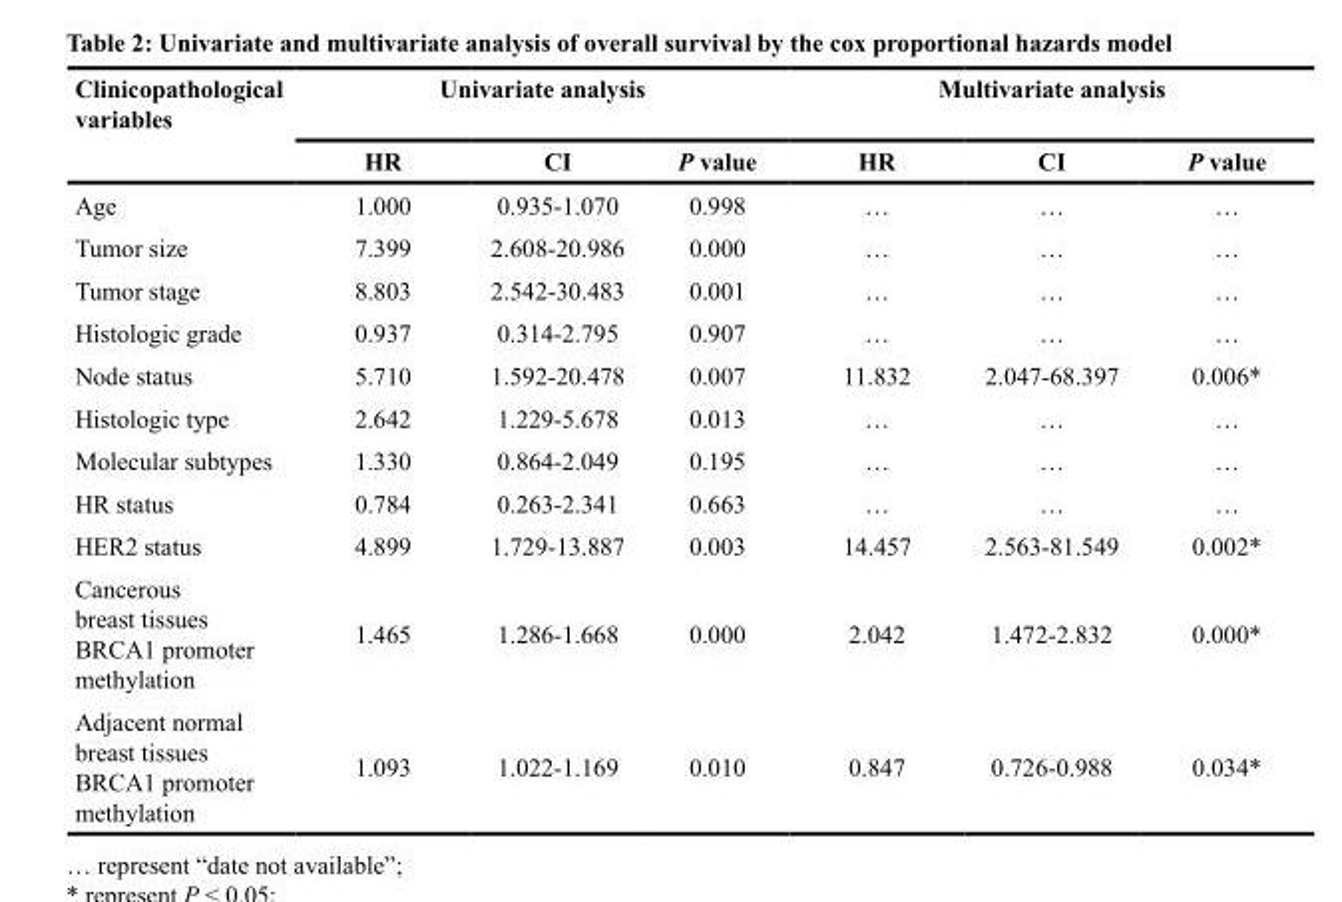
<table><thead><tr><td rowspan="2">Clinicopathological variables</td><td colspan="3">Univariate analysis</td><td colspan="3">Multivariate analysis</td></tr><tr><td>HR</td><td>CI</td><td>P value</td><td>HR</td><td>CI</td><td>P value</td></tr></thead><tbody><tr><td>Age</td><td>1.000</td><td>0.935-1.070</td><td>0.998</td><td>…</td><td>…</td><td>…</td></tr><tr><td>Tumor size</td><td>7.399</td><td>2.608-20.986</td><td>0.000</td><td>…</td><td>…</td><td>…</td></tr><tr><td>Tumor stage</td><td>8.803</td><td>2.542-30.483</td><td>0.001</td><td>…</td><td>…</td><td>…</td></tr><tr><td>Histologic grade</td><td>0.937</td><td>0.314-2.795</td><td>0.907</td><td>…</td><td>…</td><td>…</td></tr><tr><td>Node status</td><td>5.710</td><td>1.592-20.478</td><td>0.007</td><td>11.832</td><td>2.047-68.397</td><td>0.006*</td></tr><tr><td>Histologic type</td><td>2.642</td><td>1.229-5.678</td><td>0.013</td><td>…</td><td>…</td><td>…</td></tr><tr><td>Molecular subtypes</td><td>1.330</td><td>0.864-2.049</td><td>0.195</td><td>…</td><td>…</td><td>…</td></tr><tr><td>HR status</td><td>0.784</td><td>0.263-2.341</td><td>0.663</td><td>…</td><td>…</td><td>…</td></tr><tr><td>HER2 status</td><td>4.899</td><td>1.729-13.887</td><td>0.003</td><td>14.457</td><td>2.563-81.549</td><td>0.002*</td></tr><tr><td>Cancerous breast tissues BRCA1 promoter methylation</td><td>1.465</td><td>1.286-1.668</td><td>0.000</td><td>2.042</td><td>1.472-2.832</td><td>0.000*</td></tr><tr><td>Adjacent normal breast tissues BRCA1 promoter methylation</td><td>1.093</td><td>1.022-1.169</td><td>0.010</td><td>0.847</td><td>0.726-0.988</td><td>0.034*</td></tr></tbody></table>